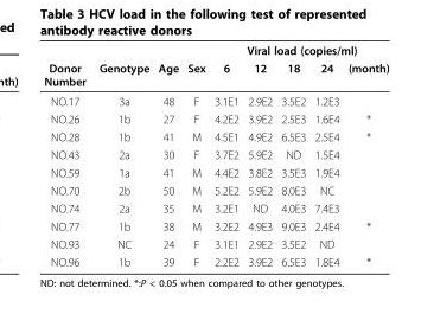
<table><thead><tr><td rowspan="2">Donor Number</td><td rowspan="2">Genotype</td><td rowspan="2">Age</td><td rowspan="2">Sex</td><td colspan="5">Viral load (copies/ml)</td></tr><tr><td>6</td><td>12</td><td>18</td><td>24</td><td>(month)</td></tr></thead><tbody><tr><td>NO.17</td><td>3a</td><td>48</td><td>F</td><td>3.1E1</td><td>2.9E2</td><td>3.5E2</td><td>1.2E3</td><td></td></tr><tr><td>NO.26</td><td>1b</td><td>27</td><td>F</td><td>4.2E2</td><td>3.9E2</td><td>2.5E3</td><td>1.6E4</td><td>*</td></tr><tr><td>NO.28</td><td>1b</td><td>41</td><td>M</td><td>4.5E1</td><td>4.9E2</td><td>6.5E3</td><td>2.5E4</td><td>*</td></tr><tr><td>NO.43</td><td>2a</td><td>30</td><td>F</td><td>3.7E2</td><td>5.9E2</td><td>ND</td><td>1.5E4</td><td></td></tr><tr><td>NO.59</td><td>1a</td><td>41</td><td>M</td><td>4.4E2</td><td>3.8E2</td><td>3.5E3</td><td>1.9E4</td><td></td></tr><tr><td>NO.70</td><td>2b</td><td>50</td><td>M</td><td>5.2E2</td><td>5.9E2</td><td>8.0E3</td><td>NC</td><td></td></tr><tr><td>NO.74</td><td>2a</td><td>35</td><td>M</td><td>3.2E1</td><td>ND</td><td>4.0E3</td><td>7.4E3</td><td></td></tr><tr><td>NO.77</td><td>1b</td><td>38</td><td>M</td><td>3.2E2</td><td>4.9E3</td><td>9.0E3</td><td>2.4E4</td><td>*</td></tr><tr><td>NO.93</td><td>NC</td><td>24</td><td>F</td><td>3.1E1</td><td>2.9E2</td><td>3.5E2</td><td>ND</td><td></td></tr><tr><td>NO.96</td><td>1b</td><td>39</td><td>F</td><td>2.2E2</td><td>3.9E2</td><td>6.5E3</td><td>1.8E4</td><td>*</td></tr></tbody></table>